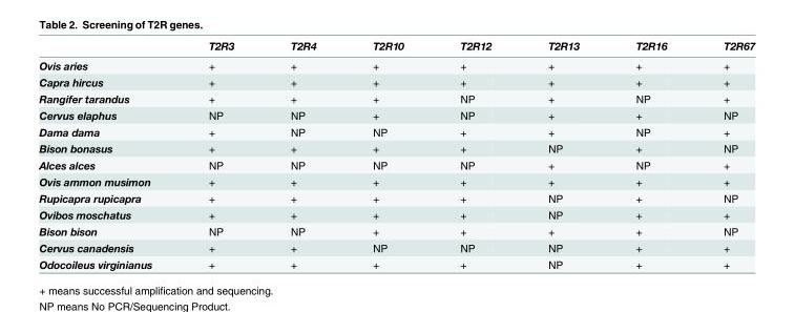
<table><thead><tr><td></td><td>T2R3</td><td>T2R4</td><td>T2R10</td><td>T2R12</td><td>T2R13</td><td>T2R16</td><td>T2R67</td></tr></thead><tbody><tr><td>Ovis aries</td><td>+</td><td>+</td><td>+</td><td>+</td><td>+</td><td>+</td><td>+</td></tr><tr><td>Capra hircus</td><td>+</td><td>+</td><td>+</td><td>+</td><td>+</td><td>+</td><td>+</td></tr><tr><td>Rangifer tarandus</td><td>+</td><td>+</td><td>+</td><td>NP</td><td>+</td><td>NP</td><td>+</td></tr><tr><td>Cervus elaphus</td><td>NP</td><td>NP</td><td>+</td><td>NP</td><td>+</td><td>+</td><td>NP</td></tr><tr><td>Dama dama</td><td>+</td><td>NP</td><td>NP</td><td>+</td><td>+</td><td>NP</td><td>+</td></tr><tr><td>Bison bonasus</td><td>+</td><td>+</td><td>+</td><td>+</td><td>NP</td><td>+</td><td>NP</td></tr><tr><td>Alces alces</td><td>NP</td><td>NP</td><td>NP</td><td>NP</td><td>+</td><td>NP</td><td>+</td></tr><tr><td>Ovis ammon musimon</td><td>+</td><td>+</td><td>+</td><td>+</td><td>+</td><td>+</td><td>+</td></tr><tr><td>Rupicapra rupicapra</td><td>+</td><td>+</td><td>+</td><td>+</td><td>NP</td><td>+</td><td>NP</td></tr><tr><td>Ovibos moschatus</td><td>+</td><td>+</td><td>+</td><td>+</td><td>NP</td><td>+</td><td>+</td></tr><tr><td>Bison bison</td><td>NP</td><td>NP</td><td>+</td><td>+</td><td>+</td><td>+</td><td>NP</td></tr><tr><td>Cervus canadensis</td><td>+</td><td>+</td><td>NP</td><td>NP</td><td>NP</td><td>+</td><td>+</td></tr><tr><td>Odocoileus virginianus</td><td>+</td><td>+</td><td>+</td><td>+</td><td>NP</td><td>+</td><td>+</td></tr></tbody></table>